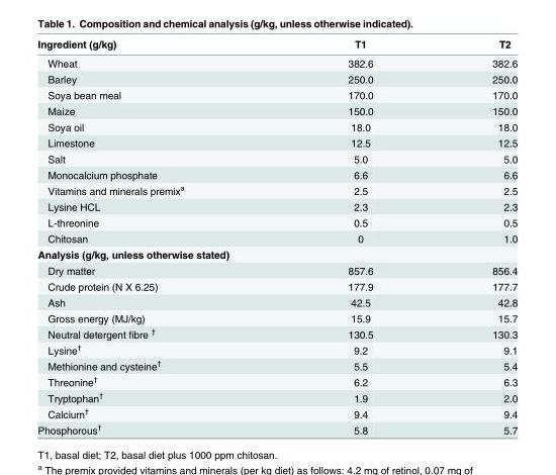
<table><thead><tr><td>Ingredient (g/kg)</td><td>T1</td><td>T2</td></tr></thead><tbody><tr><td>Wheat</td><td>382.6</td><td>382.6</td></tr><tr><td>Barley</td><td>250.0</td><td>250.0</td></tr><tr><td>Soya bean meal</td><td>170.0</td><td>170.0</td></tr><tr><td>Maize</td><td>150.0</td><td>150.0</td></tr><tr><td>Soya oil</td><td>18.0</td><td>18.0</td></tr><tr><td>Limestone</td><td>12.5</td><td>12.5</td></tr><tr><td>Salt</td><td>5.0</td><td>5.0</td></tr><tr><td>Monocalcium phosphate</td><td>6.6</td><td>6.6</td></tr><tr><td>Vitamins and minerals premix<sup>a</sup></td><td>2.5</td><td>2.5</td></tr><tr><td>Lysine HCL</td><td>2.3</td><td>2.3</td></tr><tr><td>L-threonine</td><td>0.5</td><td>0.5</td></tr><tr><td>Chitosan</td><td>0</td><td>1.0</td></tr><tr><td colspan="3">Analysis (g/kg, unless otherwise stated)</td></tr><tr><td>Dry matter</td><td>857.6</td><td>856.4</td></tr><tr><td>Crude protein (N X 6.25)</td><td>177.9</td><td>177.7</td></tr><tr><td>Ash</td><td>42.5</td><td>42.8</td></tr><tr><td>Gross energy (MJ/kg)</td><td>15.9</td><td>15.7</td></tr><tr><td>Neutral detergent fibre <sup>†</sup></td><td>130.5</td><td>130.3</td></tr><tr><td>Lysine<sup>†</sup></td><td>9.2</td><td>9.1</td></tr><tr><td>Methionine and cysteine<sup>†</sup></td><td>5.5</td><td>5.4</td></tr><tr><td>Threonine<sup>†</sup></td><td>6.2</td><td>6.3</td></tr><tr><td>Tryptophan<sup>†</sup></td><td>1.9</td><td>2.0</td></tr><tr><td>Calcium<sup>†</sup></td><td>9.4</td><td>9.4</td></tr><tr><td>Phosphorous<sup>†</sup></td><td>5.8</td><td>5.7</td></tr></tbody></table>